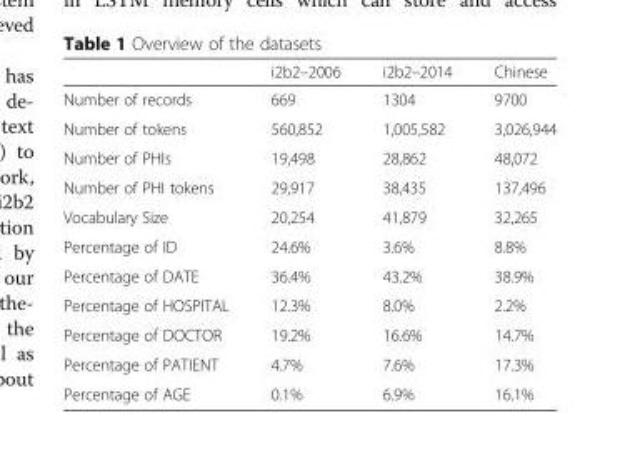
<table><thead><tr><td></td><td>i2b2–2006</td><td>i2b2–2014</td><td>Chinese</td></tr></thead><tbody><tr><td>Number of records</td><td>669</td><td>1304</td><td>9700</td></tr><tr><td>Number of tokens</td><td>560,852</td><td>1,005,582</td><td>3,026,944</td></tr><tr><td>Number of PHIs</td><td>19,498</td><td>28,862</td><td>48,072</td></tr><tr><td>Number of PHI tokens</td><td>29,917</td><td>38,435</td><td>137,496</td></tr><tr><td>Vocabulary Size</td><td>20,254</td><td>41,879</td><td>32,265</td></tr><tr><td>Percentage of ID</td><td>24.6%</td><td>3.6%</td><td>8.8%</td></tr><tr><td>Percentage of DATE</td><td>36.4%</td><td>43.2%</td><td>38.9%</td></tr><tr><td>Percentage of HOSPITAL</td><td>12.3%</td><td>8.0%</td><td>2.2%</td></tr><tr><td>Percentage of DOCTOR</td><td>19.2%</td><td>16.6%</td><td>14.7%</td></tr><tr><td>Percentage of PATIENT</td><td>4.7%</td><td>7.6%</td><td>17.3%</td></tr><tr><td>Percentage of AGE</td><td>0.1%</td><td>6.9%</td><td>16.1%</td></tr></tbody></table>